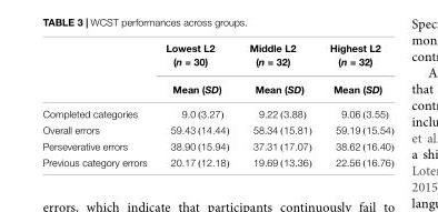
<table><thead><tr><td rowspan="2"></td><td rowspan="2">Lowest L2 (n = 30) Mean (SD)</td><td rowspan="2">Middle L2 (n = 32) Mean (SD)</td><td rowspan="2">Highest L2 (n = 32) Mean (SD)</td></tr><tr></tr></thead><tbody><tr><td>Completed categories</td><td>9.0 (3.27)</td><td>9.22 (3.88)</td><td>9.06 (3.55)</td></tr><tr><td>Overall errors</td><td>59.43 (14.44)</td><td>58.34 (15.81)</td><td>59.19 (15.54)</td></tr><tr><td>Perseverative errors</td><td>38.90 (15.94)</td><td>37.31 (17.07)</td><td>38.62 (16.40)</td></tr><tr><td>Previous category errors</td><td>20.17 (12.18)</td><td>19.69 (13.36)</td><td>22.56 (16.76)</td></tr></tbody></table>